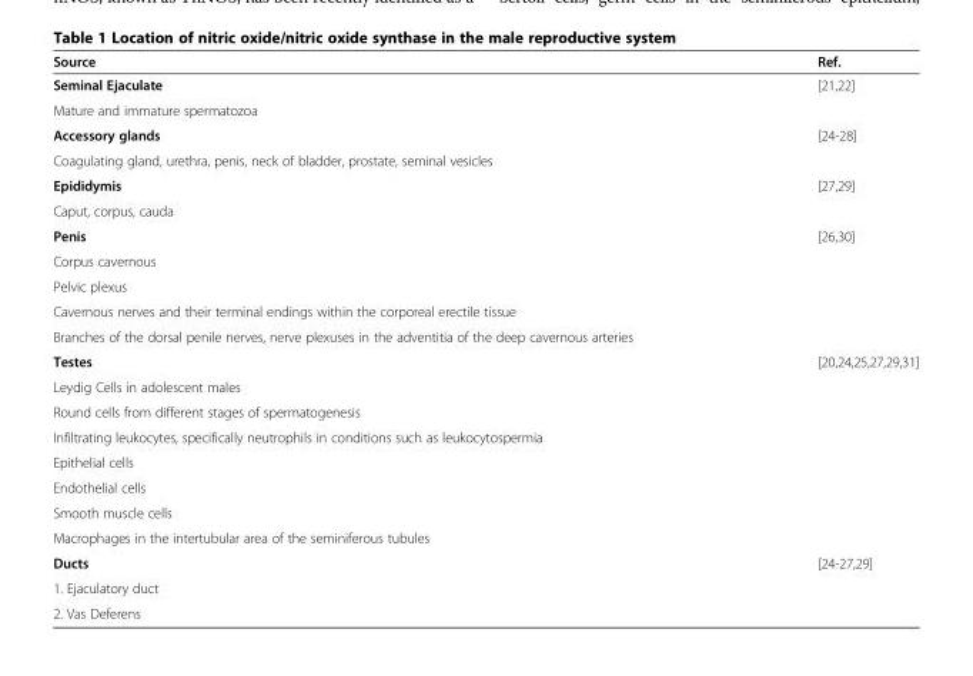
<table><thead><tr><td>Source</td><td>Ref.</td></tr></thead><tbody><tr><td>Seminal Ejaculate</td><td>[21,22]</td></tr><tr><td colspan="2">Mature and immature spermatozoa</td></tr><tr><td>Accessory glands</td><td>[24-28]</td></tr><tr><td colspan="2">Coagulating gland, urethra, penis, neck of bladder, prostate, seminal vesicles</td></tr><tr><td>Epididymis</td><td>[27,29]</td></tr><tr><td colspan="2">Caput, corpus, cauda</td></tr><tr><td>Penis</td><td>[26,30]</td></tr><tr><td colspan="2">Corpus cavernous</td></tr><tr><td colspan="2">Pelvic plexus</td></tr><tr><td colspan="2">Cavernous nerves and their terminal endings within the corporeal erectile tissue</td></tr><tr><td colspan="2">Branches of the dorsal penile nerves, nerve plexuses in the adventitia of the deep cavernous arteries</td></tr><tr><td>Testes</td><td>[20,24,25,27,29,31]</td></tr><tr><td colspan="2">Leydig Cells in adolescent males</td></tr><tr><td colspan="2">Round cells from different stages of spermatogenesis</td></tr><tr><td colspan="2">Infiltrating leukocytes, specifically neutrophils in conditions such as leukocytospermia</td></tr><tr><td colspan="2">Epithelial cells</td></tr><tr><td colspan="2">Endothelial cells</td></tr><tr><td colspan="2">Smooth muscle cells</td></tr><tr><td colspan="2">Macrophages in the intertubular area of the seminiferous tubules</td></tr><tr><td>Ducts</td><td>[24-27,29]</td></tr><tr><td colspan="2">1. Ejaculatory duct</td></tr><tr><td>2. Vas Deferens</td><td></td></tr></tbody></table>